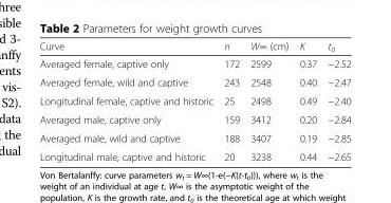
<table><thead><tr><td>Curve</td><td>n</td><td>W∞ (cm)</td><td>K</td><td>t<sub>0</sub></td></tr></thead><tbody><tr><td>Averaged female, captive only</td><td>172</td><td>2599</td><td>0.37</td><td>−2.52</td></tr><tr><td>Averaged female, wild and captive</td><td>243</td><td>2548</td><td>0.40</td><td>−2.47</td></tr><tr><td>Longitudinal female, captive and historic</td><td>25</td><td>2498</td><td>0.49</td><td>−2.40</td></tr><tr><td>Averaged male, captive only</td><td>159</td><td>3412</td><td>0.20</td><td>−2.84</td></tr><tr><td>Averaged male, wild and captive</td><td>188</td><td>3407</td><td>0.19</td><td>−2.85</td></tr><tr><td>Longitudinal male, captive and historic</td><td>20</td><td>3238</td><td>0.44</td><td>−2.65</td></tr></tbody></table>